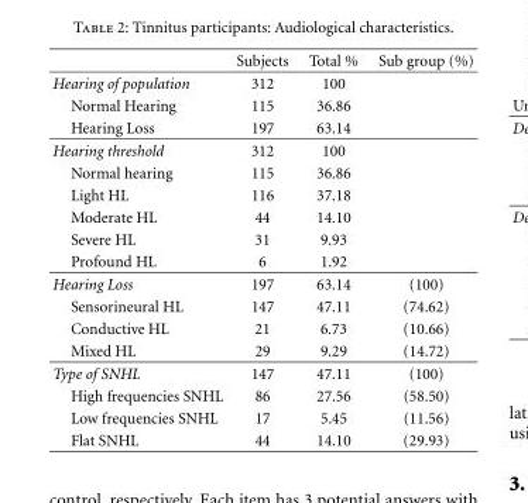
<table><thead><tr><td></td><td>Subjects</td><td>Total %</td><td>Sub group (%)</td></tr></thead><tbody><tr><td>Hearing of population</td><td>312</td><td>100</td><td></td></tr><tr><td>Normal Hearing</td><td>115</td><td>36.86</td><td></td></tr><tr><td>Hearing Loss</td><td>197</td><td>63.14</td><td></td></tr><tr><td>Hearing threshold</td><td>312</td><td>100</td><td></td></tr><tr><td>Normal hearing</td><td>115</td><td>36.86</td><td></td></tr><tr><td>Light HL</td><td>116</td><td>37.18</td><td></td></tr><tr><td>Moderate HL</td><td>44</td><td>14.10</td><td></td></tr><tr><td>Severe HL</td><td>31</td><td>9.93</td><td></td></tr><tr><td>Profound HL</td><td>6</td><td>1.92</td><td></td></tr><tr><td>Hearing Loss</td><td>197</td><td>63.14</td><td>(100)</td></tr><tr><td>Sensorineural HL</td><td>147</td><td>47.11</td><td>(74.62)</td></tr><tr><td>Conductive HL</td><td>21</td><td>6.73</td><td>(10.66)</td></tr><tr><td>Mixed HL</td><td>29</td><td>9.29</td><td>(14.72)</td></tr><tr><td>Type of SNHL</td><td>147</td><td>47.11</td><td>(100)</td></tr><tr><td>High frequencies SNHL</td><td>86</td><td>27.56</td><td>(58.50)</td></tr><tr><td>Low frequencies SNHL</td><td>17</td><td>5.45</td><td>(11.56)</td></tr><tr><td>Flat SNHL</td><td>44</td><td>14.10</td><td>(29.93)</td></tr></tbody></table>